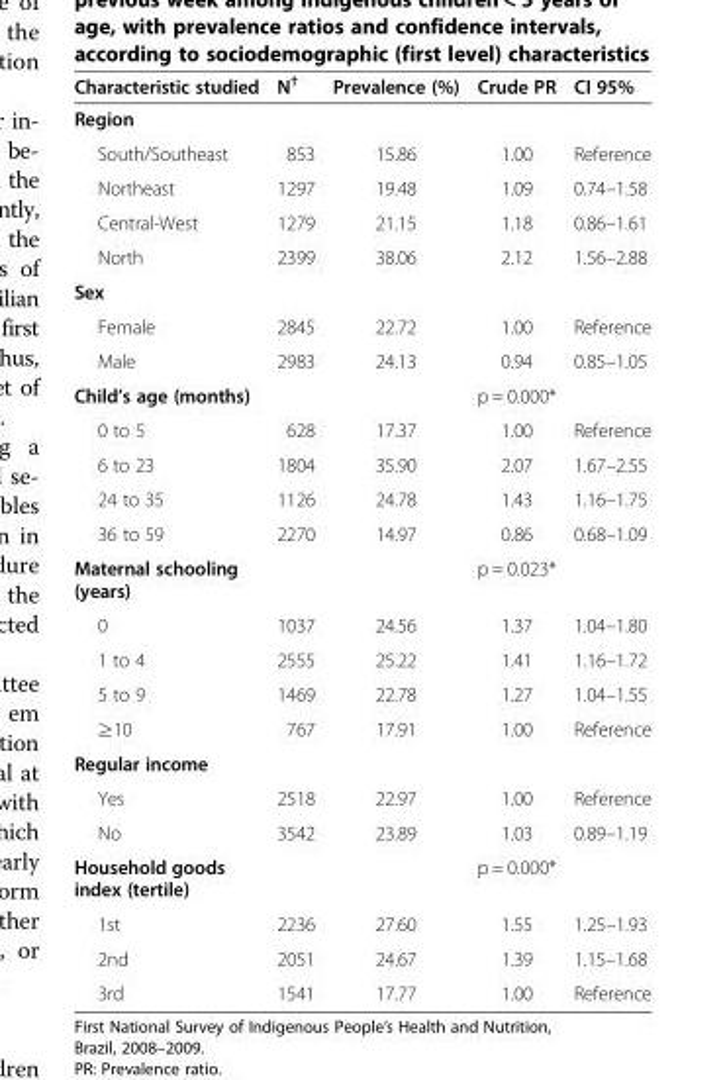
<table><thead><tr><td>Characteristic studied</td><td>N<sup>†</sup></td><td>Prevalence (%)</td><td>Crude PR</td><td>CI 95%</td></tr></thead><tbody><tr><td colspan="5">Region</td></tr><tr><td>South/Southeast</td><td>853</td><td>15.86</td><td>1.00</td><td>Reference</td></tr><tr><td>Northeast</td><td>1297</td><td>19.48</td><td>1.09</td><td>0.74–1.58</td></tr><tr><td>Central-West</td><td>1279</td><td>21.15</td><td>1.18</td><td>0.86–1.61</td></tr><tr><td>North</td><td>2399</td><td>38.06</td><td>2.12</td><td>1.56–2.88</td></tr><tr><td colspan="5">Sex</td></tr><tr><td>Female</td><td>2845</td><td>22.72</td><td>1.00</td><td>Reference</td></tr><tr><td>Male</td><td>2983</td><td>24.13</td><td>0.94</td><td>0.85–1.05</td></tr><tr><td>Child’s age (months)</td><td></td><td></td><td>p = 0.000*</td><td></td></tr><tr><td>0 to 5</td><td>628</td><td>17.37</td><td>1.00</td><td>Reference</td></tr><tr><td>6 to 23</td><td>1804</td><td>35.90</td><td>2.07</td><td>1.67–2.55</td></tr><tr><td>24 to 35</td><td>1126</td><td>24.78</td><td>1.43</td><td>1.16–1.75</td></tr><tr><td>36 to 59</td><td>2270</td><td>14.97</td><td>0.86</td><td>0.68–1.09</td></tr><tr><td>Maternal schooling (years)</td><td></td><td></td><td>p = 0.023*</td><td></td></tr><tr><td>0</td><td>1037</td><td>24.56</td><td>1.37</td><td>1.04–1.80</td></tr><tr><td>1 to 4</td><td>2555</td><td>25.22</td><td>1.41</td><td>1.16–1.72</td></tr><tr><td>5 to 9</td><td>1469</td><td>22.78</td><td>1.27</td><td>1.04–1.55</td></tr><tr><td>≥10</td><td>767</td><td>17.91</td><td>1.00</td><td>Reference</td></tr><tr><td colspan="5">Regular income</td></tr><tr><td>Yes</td><td>2518</td><td>22.97</td><td>1.00</td><td>Reference</td></tr><tr><td>No</td><td>3542</td><td>23.89</td><td>1.03</td><td>0.89–1.19</td></tr><tr><td>Household goods index (tertile)</td><td></td><td></td><td>p = 0.000*</td><td></td></tr><tr><td>1st</td><td>2236</td><td>27.60</td><td>1.55</td><td>1.25–1.93</td></tr><tr><td>2nd</td><td>2051</td><td>24.67</td><td>1.39</td><td>1.15–1.68</td></tr><tr><td>3rd</td><td>1541</td><td>17.77</td><td>1.00</td><td>Reference</td></tr></tbody></table>